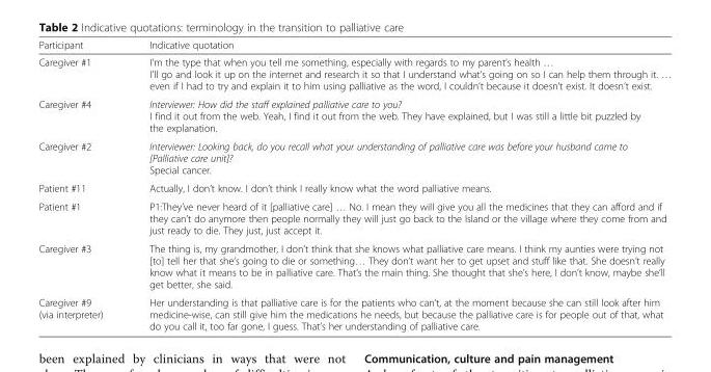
<table><thead><tr><td>Participant</td><td>Indicative quotation</td></tr></thead><tbody><tr><td>Caregiver #1</td><td>I’m the type that when you tell me something, especially with regards to my parent’s health … I’ll go and look it up on the internet and research it so that I understand what’s going on so I can help them through it. … even if I had to try and explain it to him using palliative as the word, I couldn’t because it doesn’t exist. It doesn’t exist.</td></tr><tr><td>Caregiver #4</td><td>Interviewer: How did the staff explained palliative care to you? I find it out from the web. Yeah, I find it out from the web. They have explained, but I was still a little bit puzzled by the explanation.</td></tr><tr><td>Caregiver #2</td><td>Interviewer: Looking back, do you recall what your understanding of palliative care was before your husband came to [Palliative care unit]? Special cancer.</td></tr><tr><td>Patient #11</td><td>Actually, I don’t know. I don’t think I really know what the word palliative means.</td></tr><tr><td>Patient #1</td><td>P1:They’ve never heard of it [palliative care] … No. I mean they will give you all the medicines that they can afford and if they can’t do anymore then people normally they will just go back to the Island or the village where they come from and just ready to die. They just, just accept it.</td></tr><tr><td>Caregiver #3</td><td>The thing is, my grandmother, I don’t think that she knows what palliative care means. I think my aunties were trying not [to] tell her that she’s going to die or something… They don’t want her to get upset and stuff like that. She doesn’t really know what it means to be in palliative care. That’s the main thing. She thought that she’s here, I don’t know, maybe she’ll get better, she said.</td></tr><tr><td>Caregiver #9 (via interpreter)</td><td>Her understanding is that palliative care is for the patients who can’t, at the moment because she can still look after him medicine-wise, can still give him the medications he needs, but because the palliative care is for people out of that, what do you call it, too far gone, I guess. That’s her understanding of palliative care.</td></tr></tbody></table>